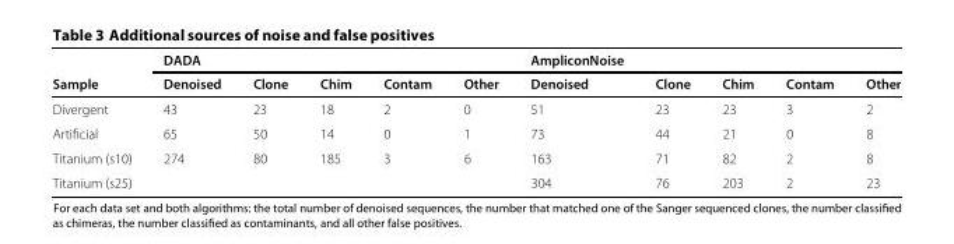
<table><thead><tr><td rowspan="2">Sample</td><td colspan="5">DADA</td><td colspan="5">AmpliconNoise</td></tr><tr><td>Denoised</td><td>Clone</td><td>Chim</td><td>Contam</td><td>Other</td><td>Denoised</td><td>Clone</td><td>Chim</td><td>Contam</td><td>Other</td></tr></thead><tbody><tr><td>Divergent</td><td>43</td><td>23</td><td>18</td><td>2</td><td>0</td><td>51</td><td>23</td><td>23</td><td>3</td><td>2</td></tr><tr><td>Artificial</td><td>65</td><td>50</td><td>14</td><td>0</td><td>1</td><td>73</td><td>44</td><td>21</td><td>0</td><td>8</td></tr><tr><td>Titanium (s10)</td><td>274</td><td>80</td><td>185</td><td>3</td><td>6</td><td>163</td><td>71</td><td>82</td><td>2</td><td>8</td></tr><tr><td>Titanium (s25)</td><td></td><td></td><td></td><td></td><td></td><td>304</td><td>76</td><td>203</td><td>2</td><td>23</td></tr></tbody></table>